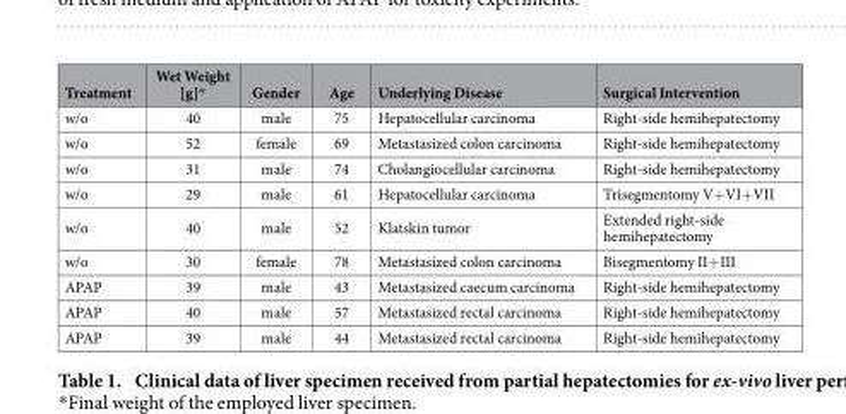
<table><thead><tr><td>Treatment</td><td>Wet Weight [g]*</td><td>Gender</td><td>Age</td><td>Underlying Disease</td><td>Surgical Intervention</td></tr></thead><tbody><tr><td>w/o</td><td>40</td><td>male</td><td>75</td><td>Hepatocellular carcinoma</td><td>Right-side hemihepatectomy</td></tr><tr><td>w/o</td><td>52</td><td>female</td><td>69</td><td>Metastasized colon carcinoma</td><td>Right-side hemihepatectomy</td></tr><tr><td>w/o</td><td>31</td><td>male</td><td>74</td><td>Cholangiocellular carcinoma</td><td>Right-side hemihepatectomy</td></tr><tr><td>w/o</td><td>29</td><td>male</td><td>61</td><td>Hepatocellular carcinoma</td><td>Trisegmentomy V+ VI+ VII</td></tr><tr><td>w/o</td><td>40</td><td>male</td><td>52</td><td>Klatskin tumor</td><td>Extended right-side hemihepatectomy</td></tr><tr><td>w/o</td><td>30</td><td>female</td><td>78</td><td>Metastasized colon carcinoma</td><td>Bisegmentomy II+ III</td></tr><tr><td>APAP</td><td>39</td><td>male</td><td>43</td><td>Metastasized caecum carcinoma</td><td>Right-side hemihepatectomy</td></tr><tr><td>APAP</td><td>40</td><td>male</td><td>57</td><td>Metastasized rectal carcinoma</td><td>Right-side hemihepatectomy</td></tr><tr><td>APAP</td><td>39</td><td>male</td><td>44</td><td>Metastasized rectal carcinoma</td><td>Right-side hemihepatectomy</td></tr></tbody></table>